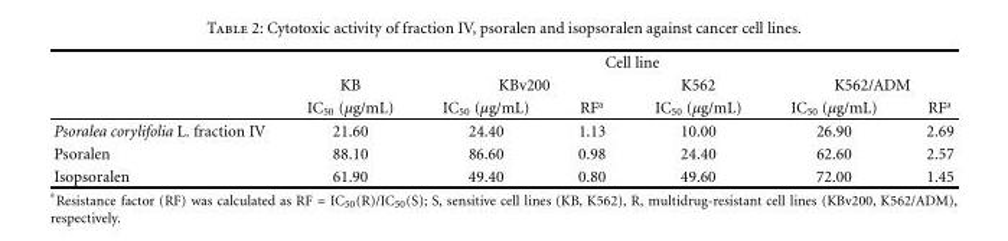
<table><thead><tr><td rowspan="3"></td><td colspan="6">Cell line</td></tr><tr><td rowspan="2">KB IC<sub>50</sub> (μg/mL)</td><td colspan="2">KBv200</td><td rowspan="2">K562 IC<sub>50</sub> (μg/mL)</td><td colspan="2">K562/ADM</td></tr><tr><td>IC<sub>50</sub> (μg/mL)</td><td>RF<sup>a</sup></td><td>IC<sub>50</sub> (μg/mL)</td><td>RF<sup>a</sup></td></tr></thead><tbody><tr><td>Psoralea corylifolia L. fraction IV</td><td>21.60</td><td>24.40</td><td>1.13</td><td>10.00</td><td>26.90</td><td>2.69</td></tr><tr><td>Psoralen</td><td>88.10</td><td>86.60</td><td>0.98</td><td>24.40</td><td>62.60</td><td>2.57</td></tr><tr><td>Isopsoralen</td><td>61.90</td><td>49.40</td><td>0.80</td><td>49.60</td><td>72.00</td><td>1.45</td></tr></tbody></table>